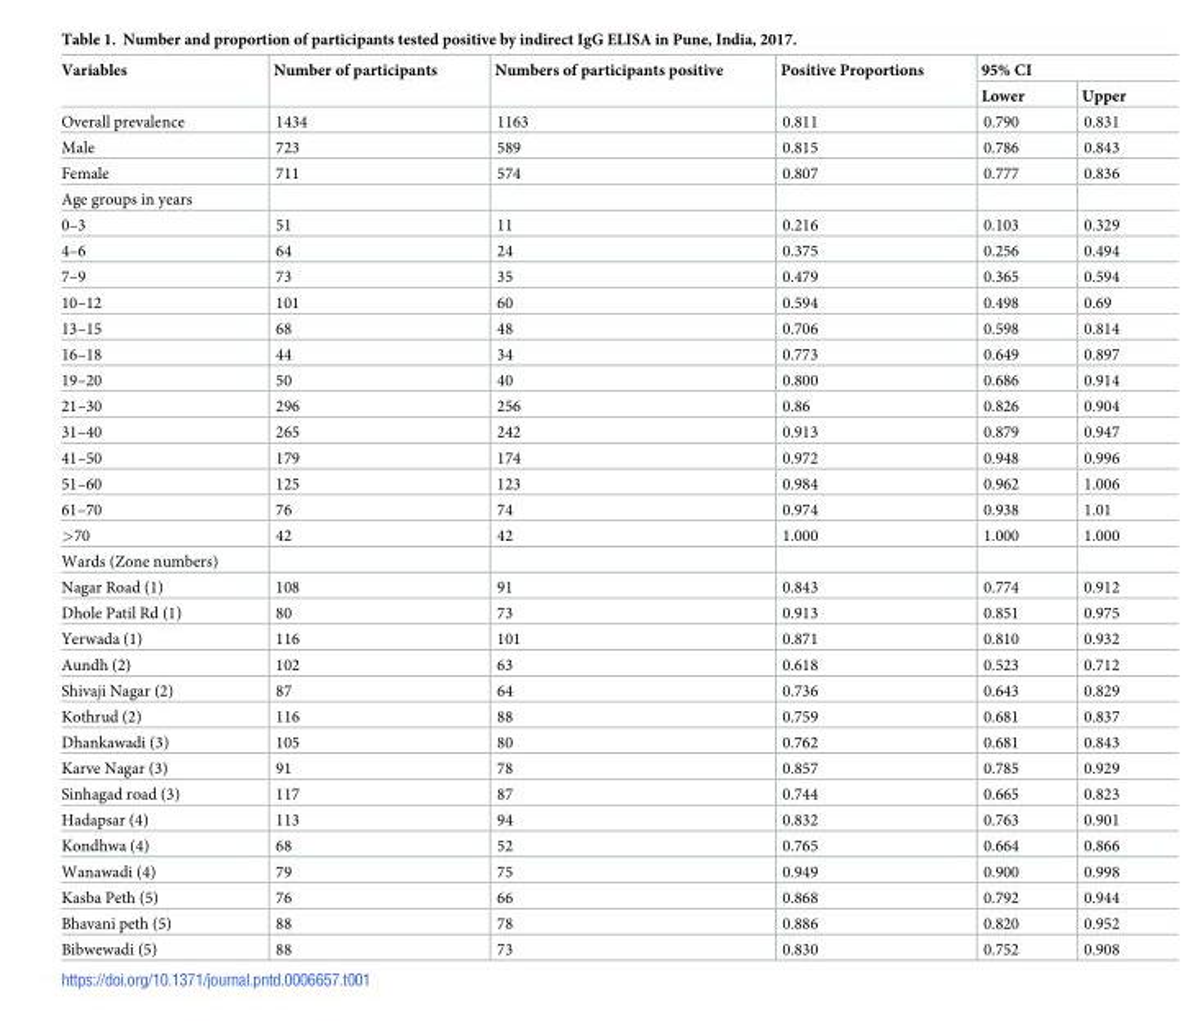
<table><thead><tr><td rowspan="2">Variables</td><td rowspan="2">Number of participants</td><td rowspan="2">Numbers of participants positive</td><td rowspan="2">Positive Proportions</td><td colspan="2">95% CI</td></tr><tr><td>Lower</td><td>Upper</td></tr></thead><tbody><tr><td>Overall prevalence</td><td>1434</td><td>1163</td><td>0.811</td><td>0.790</td><td>0.831</td></tr><tr><td>Male</td><td>723</td><td>589</td><td>0.815</td><td>0.786</td><td>0.843</td></tr><tr><td>Female</td><td>711</td><td>574</td><td>0.807</td><td>0.777</td><td>0.836</td></tr><tr><td colspan="6">Age groups in years</td></tr><tr><td>0–3</td><td>51</td><td>11</td><td>0.216</td><td>0.103</td><td>0.329</td></tr><tr><td>4–6</td><td>64</td><td>24</td><td>0.375</td><td>0.256</td><td>0.494</td></tr><tr><td>7–9</td><td>73</td><td>35</td><td>0.479</td><td>0.365</td><td>0.594</td></tr><tr><td>10–12</td><td>101</td><td>60</td><td>0.594</td><td>0.498</td><td>0.69</td></tr><tr><td>13–15</td><td>68</td><td>48</td><td>0.706</td><td>0.598</td><td>0.814</td></tr><tr><td>16–18</td><td>44</td><td>34</td><td>0.773</td><td>0.649</td><td>0.897</td></tr><tr><td>19–20</td><td>50</td><td>40</td><td>0.800</td><td>0.686</td><td>0.914</td></tr><tr><td>21–30</td><td>296</td><td>256</td><td>0.86</td><td>0.826</td><td>0.904</td></tr><tr><td>31–40</td><td>265</td><td>242</td><td>0.913</td><td>0.879</td><td>0.947</td></tr><tr><td>41–50</td><td>179</td><td>174</td><td>0.972</td><td>0.948</td><td>0.996</td></tr><tr><td>51–60</td><td>125</td><td>123</td><td>0.984</td><td>0.962</td><td>1.006</td></tr><tr><td>61–70</td><td>76</td><td>74</td><td>0.974</td><td>0.938</td><td>1.01</td></tr><tr><td>&gt;70</td><td>42</td><td>42</td><td>1.000</td><td>1.000</td><td>1.000</td></tr><tr><td colspan="6">Wards (Zone numbers)</td></tr><tr><td>Nagar Road (1)</td><td>108</td><td>91</td><td>0.843</td><td>0.774</td><td>0.912</td></tr><tr><td>Dhole Patil Rd (1)</td><td>80</td><td>73</td><td>0.913</td><td>0.851</td><td>0.975</td></tr><tr><td>Yerwada (1)</td><td>116</td><td>101</td><td>0.871</td><td>0.810</td><td>0.932</td></tr><tr><td>Aundh (2)</td><td>102</td><td>63</td><td>0.618</td><td>0.523</td><td>0.712</td></tr><tr><td>Shivaji Nagar (2)</td><td>87</td><td>64</td><td>0.736</td><td>0.643</td><td>0.829</td></tr><tr><td>Kothrud (2)</td><td>116</td><td>88</td><td>0.759</td><td>0.681</td><td>0.837</td></tr><tr><td>Dhankawadi (3)</td><td>105</td><td>80</td><td>0.762</td><td>0.681</td><td>0.843</td></tr><tr><td>Karve Nagar (3)</td><td>91</td><td>78</td><td>0.857</td><td>0.785</td><td>0.929</td></tr><tr><td>Sinhagad road (3)</td><td>117</td><td>87</td><td>0.744</td><td>0.665</td><td>0.823</td></tr><tr><td>Hadapsar (4)</td><td>113</td><td>94</td><td>0.832</td><td>0.763</td><td>0.901</td></tr><tr><td>Kondhwa (4)</td><td>68</td><td>52</td><td>0.765</td><td>0.664</td><td>0.866</td></tr><tr><td>Wanawadi (4)</td><td>79</td><td>75</td><td>0.949</td><td>0.900</td><td>0.998</td></tr><tr><td>Kasba Peth (5)</td><td>76</td><td>66</td><td>0.868</td><td>0.792</td><td>0.944</td></tr><tr><td>Bhavani peth (5)</td><td>88</td><td>78</td><td>0.886</td><td>0.820</td><td>0.952</td></tr><tr><td>Bibwewadi (5)</td><td>88</td><td>73</td><td>0.830</td><td>0.752</td><td>0.908</td></tr></tbody></table>